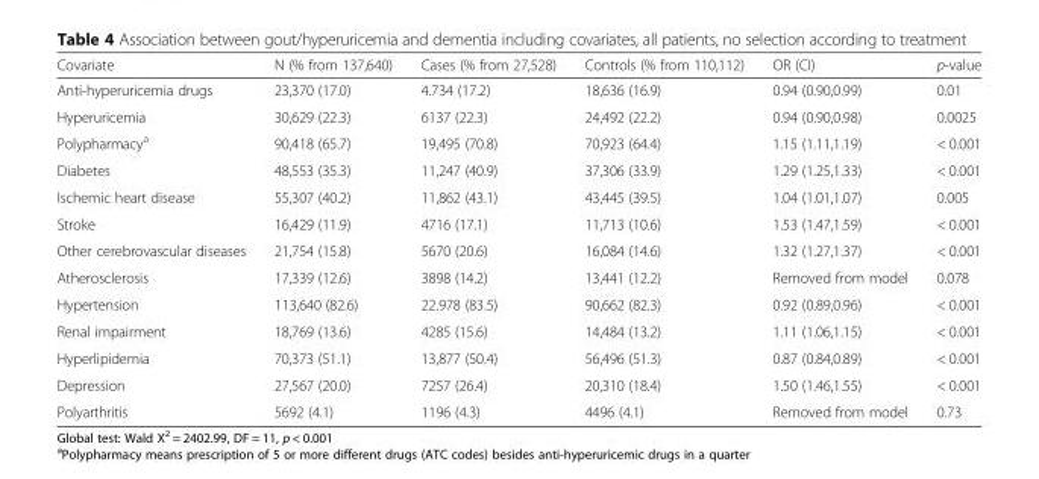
<table><thead><tr><td>Covariate</td><td>N (% from 137,640)</td><td>Cases (% from 27,528)</td><td>Controls (% from 110,112)</td><td>OR (CI)</td><td>p-value</td></tr></thead><tbody><tr><td>Anti-hyperuricemia drugs</td><td>23,370 (17.0)</td><td>4.734 (17.2)</td><td>18,636 (16.9)</td><td>0.94 (0.90,0.99)</td><td>0.01</td></tr><tr><td>Hyperuricemia</td><td>30,629 (22.3)</td><td>6137 (22.3)</td><td>24,492 (22.2)</td><td>0.94 (0.90,0.98)</td><td>0.0025</td></tr><tr><td>Polypharmacy<sup>a</sup></td><td>90,418 (65.7)</td><td>19,495 (70.8)</td><td>70,923 (64.4)</td><td>1.15 (1.11,1.19)</td><td>&lt; 0.001</td></tr><tr><td>Diabetes</td><td>48,553 (35.3)</td><td>11,247 (40.9)</td><td>37,306 (33.9)</td><td>1.29 (1.25,1.33)</td><td>&lt; 0.001</td></tr><tr><td>Ischemic heart disease</td><td>55,307 (40.2)</td><td>11,862 (43.1)</td><td>43,445 (39.5)</td><td>1.04 (1.01,1.07)</td><td>0.005</td></tr><tr><td>Stroke</td><td>16,429 (11.9)</td><td>4716 (17.1)</td><td>11,713 (10.6)</td><td>1.53 (1.47,1.59)</td><td>&lt; 0.001</td></tr><tr><td>Other cerebrovascular diseases</td><td>21,754 (15.8)</td><td>5670 (20.6)</td><td>16,084 (14.6)</td><td>1.32 (1.27,1.37)</td><td>&lt; 0.001</td></tr><tr><td>Atherosclerosis</td><td>17,339 (12.6)</td><td>3898 (14.2)</td><td>13,441 (12.2)</td><td>Removed from model</td><td>0.078</td></tr><tr><td>Hypertension</td><td>113,640 (82.6)</td><td>22.978 (83.5)</td><td>90,662 (82.3)</td><td>0.92 (0.89,0.96)</td><td>&lt; 0.001</td></tr><tr><td>Renal impairment</td><td>18,769 (13.6)</td><td>4285 (15.6)</td><td>14,484 (13.2)</td><td>1.11 (1.06,1.15)</td><td>&lt; 0.001</td></tr><tr><td>Hyperlipidemia</td><td>70,373 (51.1)</td><td>13,877 (50.4)</td><td>56,496 (51.3)</td><td>0.87 (0.84,0.89)</td><td>&lt; 0.001</td></tr><tr><td>Depression</td><td>27,567 (20.0)</td><td>7257 (26.4)</td><td>20,310 (18.4)</td><td>1.50 (1.46,1.55)</td><td>&lt; 0.001</td></tr><tr><td>Polyarthritis</td><td>5692 (4.1)</td><td>1196 (4.3)</td><td>4496 (4.1)</td><td>Removed from model</td><td>0.73</td></tr></tbody></table>